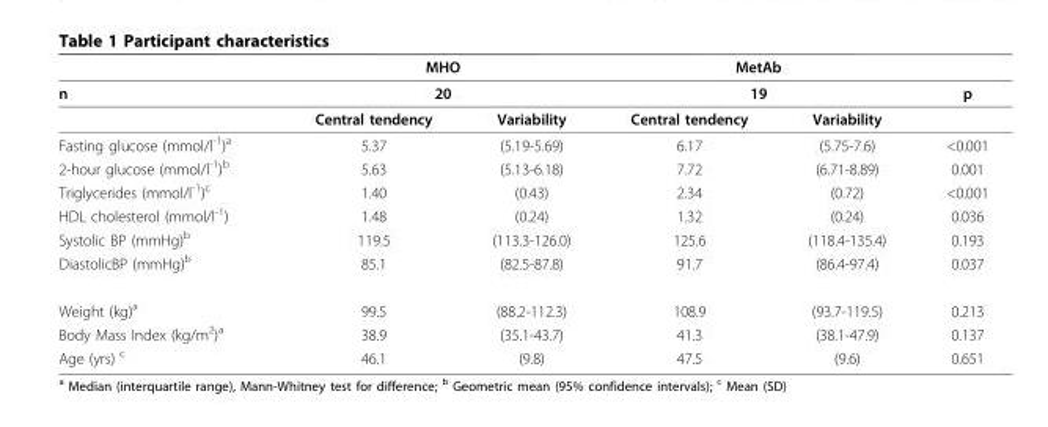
<table><thead><tr><td rowspan="3">n</td><td rowspan="2" colspan="2">MHO 20</td><td rowspan="2" colspan="2">MetAb 19</td><td rowspan="3">p</td></tr><tr></tr><tr><td>Central tendency</td><td>Variability</td><td>Central tendency</td><td>Variability</td></tr></thead><tbody><tr><td>Fasting glucose (mmol/l<sup>-1</sup>)<sup>a</sup></td><td>5.37</td><td>(5.19-5.69)</td><td>6.17</td><td>(5.75-7.6)</td><td>&lt;0.001</td></tr><tr><td>2-hour glucose (mmol/l<sup>-1</sup>)<sup>b</sup></td><td>5.63</td><td>(5.13-6.18)</td><td>7.72</td><td>(6.71-8.89)</td><td>0.001</td></tr><tr><td>Triglycerides (mmol/l<sup>-1</sup>)<sup>c</sup></td><td>1.40</td><td>(0.43)</td><td>2.34</td><td>(0.72)</td><td>&lt;0.001</td></tr><tr><td>HDL cholesterol (mmol/l<sup>-1</sup>)</td><td>1.48</td><td>(0.24)</td><td>1.32</td><td>(0.24)</td><td>0.036</td></tr><tr><td>Systolic BP (mmHg)<sup>b</sup></td><td>119.5</td><td>(113.3-126.0)</td><td>125.6</td><td>(118.4-135.4)</td><td>0.193</td></tr><tr><td>DiastolicBP (mmHg)<sup>b</sup></td><td>85.1</td><td>(82.5-87.8)</td><td>91.7</td><td>(86.4-97.4)</td><td>0.037</td></tr><tr><td>Weight (kg)<sup>a</sup></td><td>99.5</td><td>(88.2-112.3)</td><td>108.9</td><td>(93.7-119.5)</td><td>0.213</td></tr><tr><td>Body Mass Index (kg/m<sup>2</sup>)<sup>a</sup></td><td>38.9</td><td>(35.1-43.7)</td><td>41.3</td><td>(38.1-47.9)</td><td>0.137</td></tr><tr><td>Age (yrs) <sup>c</sup></td><td>46.1</td><td>(9.8)</td><td>47.5</td><td>(9.6)</td><td>0.651</td></tr></tbody></table>